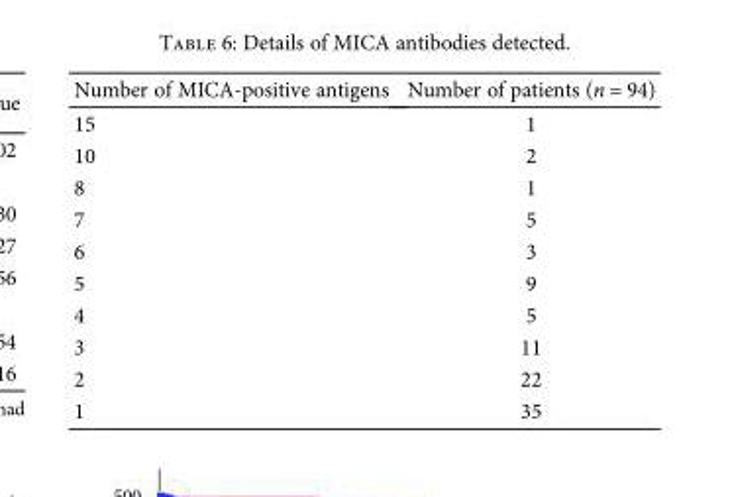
<table><thead><tr><td>Number of MICA-positive antigens</td><td>Number of patients (n = 94)</td></tr></thead><tbody><tr><td>15</td><td>1</td></tr><tr><td>10</td><td>2</td></tr><tr><td>8</td><td>1</td></tr><tr><td>7</td><td>5</td></tr><tr><td>6</td><td>3</td></tr><tr><td>5</td><td>9</td></tr><tr><td>4</td><td>5</td></tr><tr><td>3</td><td>11</td></tr><tr><td>2</td><td>22</td></tr><tr><td>1</td><td>35</td></tr></tbody></table>